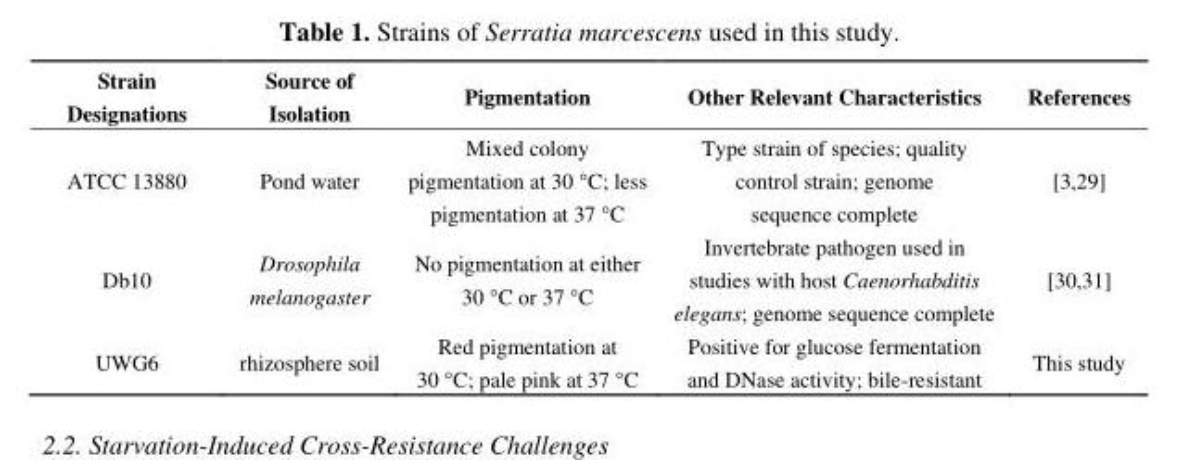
<table><thead><tr><td>Strain Designations</td><td>Source of Isolation</td><td>Pigmentation</td><td>Other Relevant Characteristics</td><td>References</td></tr></thead><tbody><tr><td>ATCC 13880</td><td>Pond water</td><td>Mixed colony pigmentation at 30 °C; less pigmentation at 37 °C</td><td>Type strain of species; quality control strain; genome sequence complete</td><td>[3,29]</td></tr><tr><td>Db10</td><td>Drosophila melanogaster</td><td>No pigmentation at either 30 °C or 37 °C</td><td>Invertebrate pathogen used in studies with host Caenorhabditis elegans; genome sequence complete</td><td>[30,31]</td></tr><tr><td>UWG6</td><td>rhizosphere soil</td><td>Red pigmentation at 30 °C; pale pink at 37 °C</td><td>Positive for glucose fermentation and DNase activity; bile-resistant</td><td>This study</td></tr></tbody></table>